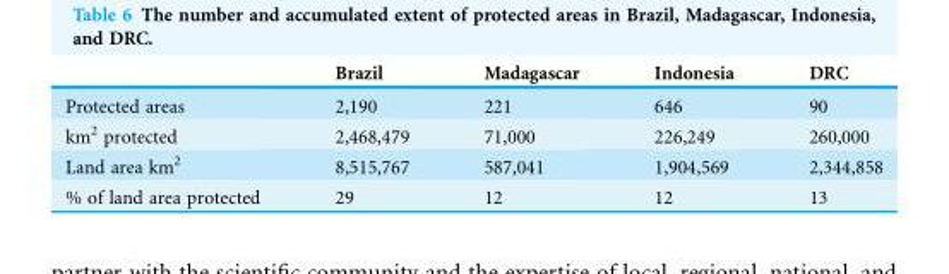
<table><thead><tr><td></td><td>Brazil</td><td>Madagascar</td><td>Indonesia</td><td>DRC</td></tr></thead><tbody><tr><td>Protected areas</td><td>2,190</td><td>221</td><td>646</td><td>90</td></tr><tr><td>km<sup>2</sup> protected</td><td>2,468,479</td><td>71,000</td><td>226,249</td><td>260,000</td></tr><tr><td>Land area km<sup>2</sup></td><td>8,515,767</td><td>587,041</td><td>1,904,569</td><td>2,344,858</td></tr><tr><td>% of land area protected</td><td>29</td><td>12</td><td>12</td><td>13</td></tr></tbody></table>